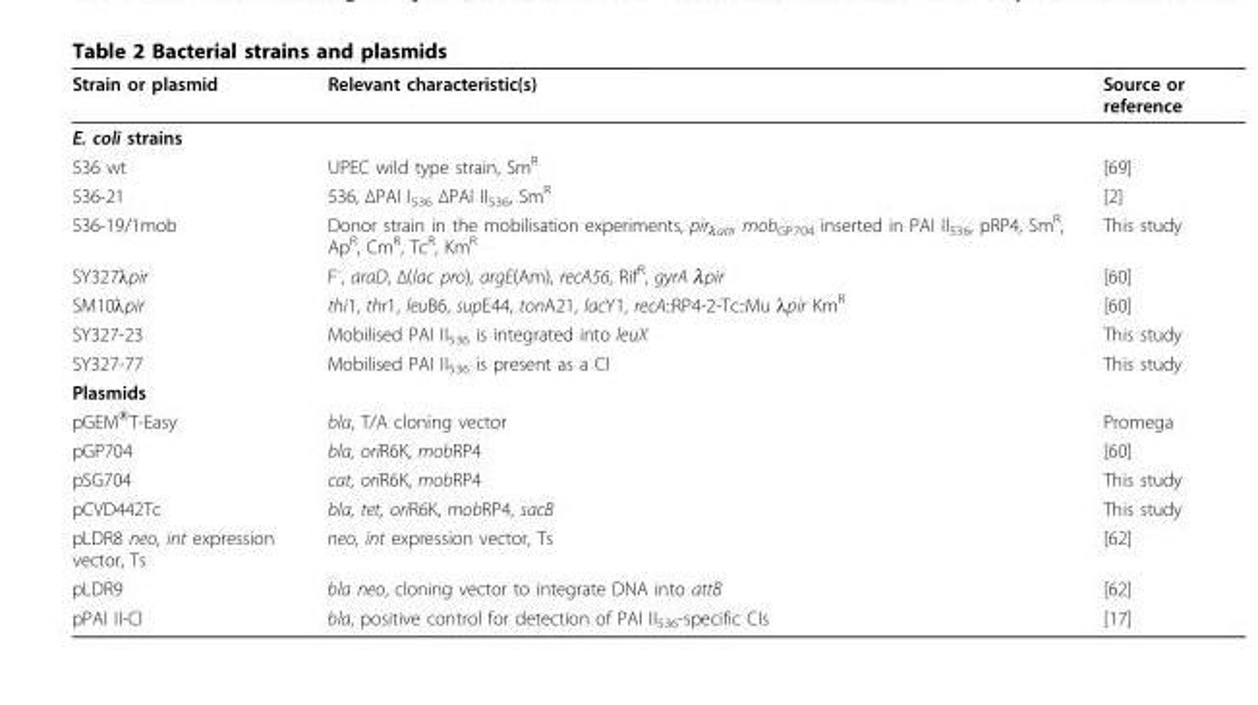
<table><thead><tr><td>Strain or plasmid</td><td>Relevant characteristic(s)</td><td>Source or reference</td></tr></thead><tbody><tr><td colspan="3">E. coli strains</td></tr><tr><td>536 wt</td><td>UPEC wild type strain, Sm<sup>R</sup></td><td>[69]</td></tr><tr><td>536-21</td><td>536, ΔPAI I<sub>536</sub> ΔPAI II<sub>536</sub>, Sm<sup>R</sup></td><td>[2]</td></tr><tr><td>536-19/1mob</td><td>Donor strain in the mobilisation experiments, pir<sub>λatt</sub>, mob<sub>GP704</sub> inserted in PAI II<sub>536</sub>, pRP4, Sm<sup>R</sup>, Ap<sup>R</sup>, Cm<sup>R</sup>, Tc<sup>R</sup>, Km<sup>R</sup></td><td>This study</td></tr><tr><td>SY327λpir</td><td>F<sup>-</sup>, araD, Δ(lac pro), argE(Am), recA56, Rif<sup>R</sup>, gyrA λpir</td><td>[60]</td></tr><tr><td>SM10λpir</td><td>thi1, thr1, leuB6, supE44, tonA21, lacY1, recA::RP4-2-Tc::Mu λpir Km<sup>R</sup></td><td>[60]</td></tr><tr><td>SY327-23</td><td>Mobilised PAI II<sub>536</sub> is integrated into leuX</td><td>This study</td></tr><tr><td>SY327-77</td><td>Mobilised PAI II<sub>536</sub> is present as a CI</td><td>This study</td></tr><tr><td colspan="3">Plasmids</td></tr><tr><td>pGEM<sup>®</sup>T-Easy</td><td>bla, T/A cloning vector</td><td>Promega</td></tr><tr><td>pGP704</td><td>bla, oriR6K, mobRP4</td><td>[60]</td></tr><tr><td>pSG704</td><td>cat, oriR6K, mobRP4</td><td>This study</td></tr><tr><td>pCVD442Tc</td><td>bla, tet, oriR6K, mobRP4, sacB</td><td>This study</td></tr><tr><td>pLDR8 neo, int expression vector, Ts</td><td>neo, int expression vector, Ts</td><td>[62]</td></tr><tr><td>pLDR9</td><td>bla neo, cloning vector to integrate DNA into attB</td><td>[62]</td></tr><tr><td>pPAI II-CI</td><td>bla, positive control for detection of PAI II<sub>536</sub>-specific CIs</td><td>[17]</td></tr></tbody></table>